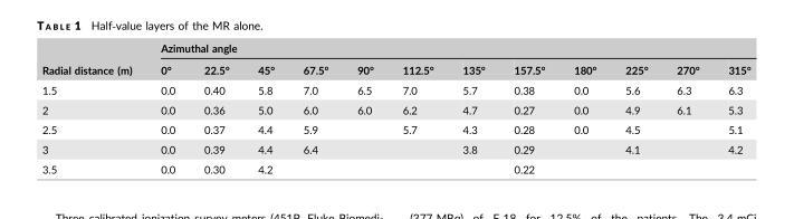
<table><thead><tr><td rowspan="2">Radial distance (m)</td><td colspan="12">Azimuthal angle</td></tr><tr><td>0°</td><td>22.5°</td><td>45°</td><td>67.5°</td><td>90°</td><td>112.5°</td><td>135°</td><td>157.5°</td><td>180°</td><td>225°</td><td>270°</td><td>315°</td></tr></thead><tbody><tr><td>1.5</td><td>0.0</td><td>0.40</td><td>5.8</td><td>7.0</td><td>6.5</td><td>7.0</td><td>5.7</td><td>0.38</td><td>0.0</td><td>5.6</td><td>6.3</td><td>6.3</td></tr><tr><td>2</td><td>0.0</td><td>0.36</td><td>5.0</td><td>6.0</td><td>6.0</td><td>6.2</td><td>4.7</td><td>0.27</td><td>0.0</td><td>4.9</td><td>6.1</td><td>5.3</td></tr><tr><td>2.5</td><td>0.0</td><td>0.37</td><td>4.4</td><td>5.9</td><td></td><td>5.7</td><td>4.3</td><td>0.28</td><td>0.0</td><td>4.5</td><td></td><td>5.1</td></tr><tr><td>3</td><td>0.0</td><td>0.39</td><td>4.4</td><td>6.4</td><td></td><td></td><td>3.8</td><td>0.29</td><td></td><td>4.1</td><td></td><td>4.2</td></tr><tr><td>3.5</td><td>0.0</td><td>0.30</td><td>4.2</td><td></td><td></td><td></td><td></td><td>0.22</td><td></td><td></td><td></td><td></td></tr></tbody></table>